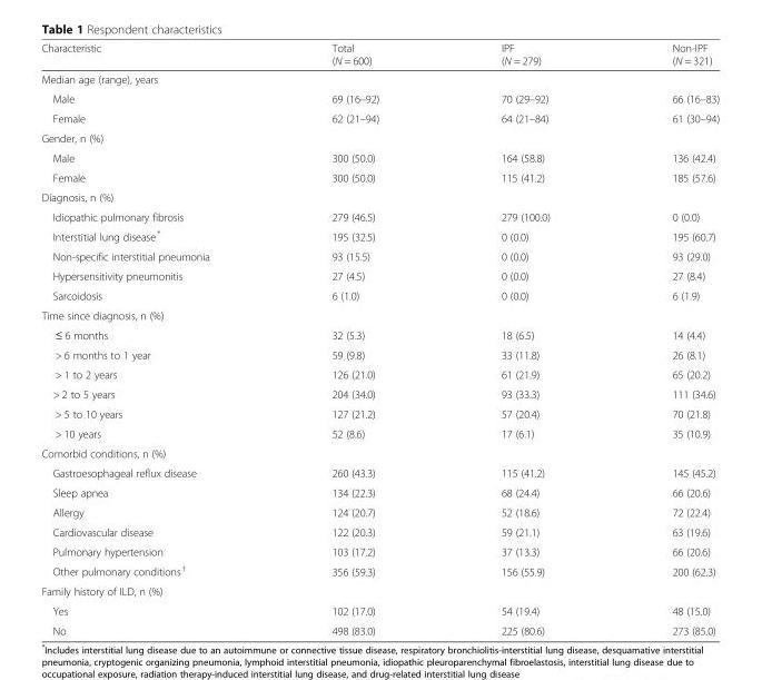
<table><thead><tr><td>Characteristic</td><td>Total (N = 600)</td><td>IPF (N = 279)</td><td>Non-IPF (N = 321)</td></tr></thead><tbody><tr><td colspan="4">Median age (range), years</td></tr><tr><td>Male</td><td>69 (16–92)</td><td>70 (29–92)</td><td>66 (16–83)</td></tr><tr><td>Female</td><td>62 (21–94)</td><td>64 (21–84)</td><td>61 (30–94)</td></tr><tr><td colspan="4">Gender, n (%)</td></tr><tr><td>Male</td><td>300 (50.0)</td><td>164 (58.8)</td><td>136 (42.4)</td></tr><tr><td>Female</td><td>300 (50.0)</td><td>115 (41.2)</td><td>185 (57.6)</td></tr><tr><td colspan="4">Diagnosis, n (%)</td></tr><tr><td>Idiopathic pulmonary fibrosis</td><td>279 (46.5)</td><td>279 (100.0)</td><td>0 (0.0)</td></tr><tr><td>Interstitial lung disease *</td><td>195 (32.5)</td><td>0 (0.0)</td><td>195 (60.7)</td></tr><tr><td>Non-specific interstitial pneumonia</td><td>93 (15.5)</td><td>0 (0.0)</td><td>93 (29.0)</td></tr><tr><td>Hypersensitivity pneumonitis</td><td>27 (4.5)</td><td>0 (0.0)</td><td>27 (8.4)</td></tr><tr><td>Sarcoidosis</td><td>6 (1.0)</td><td>0 (0.0)</td><td>6 (1.9)</td></tr><tr><td colspan="4">Time since diagnosis, n (%)</td></tr><tr><td>≤ 6 months</td><td>32 (5.3)</td><td>18 (6.5)</td><td>14 (4.4)</td></tr><tr><td>&gt; 6 months to 1 year</td><td>59 (9.8)</td><td>33 (11.8)</td><td>26 (8.1)</td></tr><tr><td>&gt; 1 to 2 years</td><td>126 (21.0)</td><td>61 (21.9)</td><td>65 (20.2)</td></tr><tr><td>&gt; 2 to 5 years</td><td>204 (34.0)</td><td>93 (33.3)</td><td>111 (34.6)</td></tr><tr><td>&gt; 5 to 10 years</td><td>127 (21.2)</td><td>57 (20.4)</td><td>70 (21.8)</td></tr><tr><td>&gt; 10 years</td><td>52 (8.6)</td><td>17 (6.1)</td><td>35 (10.9)</td></tr><tr><td colspan="4">Comorbid conditions, n (%)</td></tr><tr><td>Gastroesophageal reflux disease</td><td>260 (43.3)</td><td>115 (41.2)</td><td>145 (45.2)</td></tr><tr><td>Sleep apnea</td><td>134 (22.3)</td><td>68 (24.4)</td><td>66 (20.6)</td></tr><tr><td>Allergy</td><td>124 (20.7)</td><td>52 (18.6)</td><td>72 (22.4)</td></tr><tr><td>Cardiovascular disease</td><td>122 (20.3)</td><td>59 (21.1)</td><td>63 (19.6)</td></tr><tr><td>Pulmonary hypertension</td><td>103 (17.2)</td><td>37 (13.3)</td><td>66 (20.6)</td></tr><tr><td>Other pulmonary conditions <sup>†</sup></td><td>356 (59.3)</td><td>156 (55.9)</td><td>200 (62.3)</td></tr><tr><td colspan="4">Family history of ILD, n (%)</td></tr><tr><td>Yes</td><td>102 (17.0)</td><td>54 (19.4)</td><td>48 (15.0)</td></tr><tr><td>No</td><td>498 (83.0)</td><td>225 (80.6)</td><td>273 (85.0)</td></tr></tbody></table>